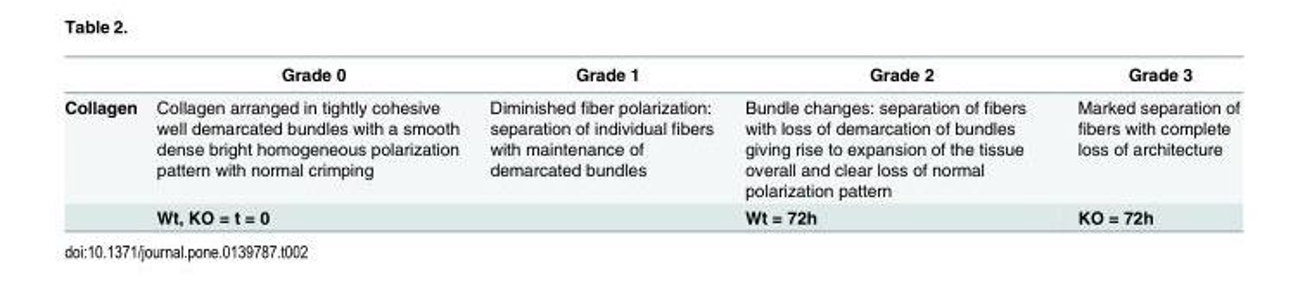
<table><thead><tr><td></td><td>Grade 0</td><td>Grade 1</td><td>Grade 2</td><td>Grade 3</td></tr></thead><tbody><tr><td rowspan="2">Collagen</td><td>Collagen arranged in tightly cohesive well demarcated bundles with a smooth dense bright homogeneous polarization pattern with normal crimping</td><td>Diminished fiber polarization: separation of individual fibers with maintenance of demarcated bundles</td><td>Bundle changes: separation of fibers with loss of demarcation of bundles giving rise to expansion of the tissue overall and clear loss of normal polarization pattern</td><td>Marked separation of fibers with complete loss of architecture</td></tr><tr><td>Wt, KO = t = 0</td><td></td><td>Wt = 72h</td><td>KO = 72h</td></tr></tbody></table>